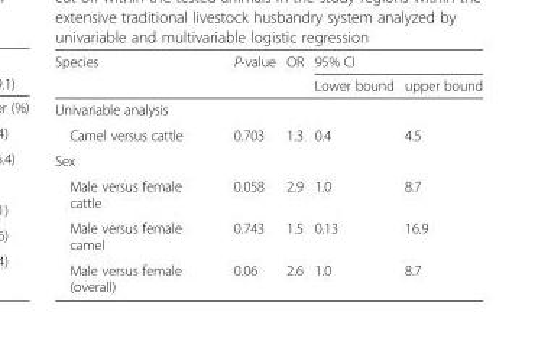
<table><thead><tr><td rowspan="2">Species</td><td rowspan="2">P-value</td><td rowspan="2">OR</td><td colspan="2">95% CI</td></tr><tr><td>Lower bound</td><td>upper bound</td></tr></thead><tbody><tr><td colspan="5">Univariable analysis</td></tr><tr><td>Camel versus cattle</td><td>0.703</td><td>1.3</td><td>0.4</td><td>4.5</td></tr><tr><td colspan="5">Sex</td></tr><tr><td>Male versus female cattle</td><td>0.058</td><td>2.9</td><td>1.0</td><td>8.7</td></tr><tr><td>Male versus female camel</td><td>0.743</td><td>1.5</td><td>0.13</td><td>16.9</td></tr><tr><td>Male versus female (overall)</td><td>0.06</td><td>2.6</td><td>1.0</td><td>8.7</td></tr></tbody></table>